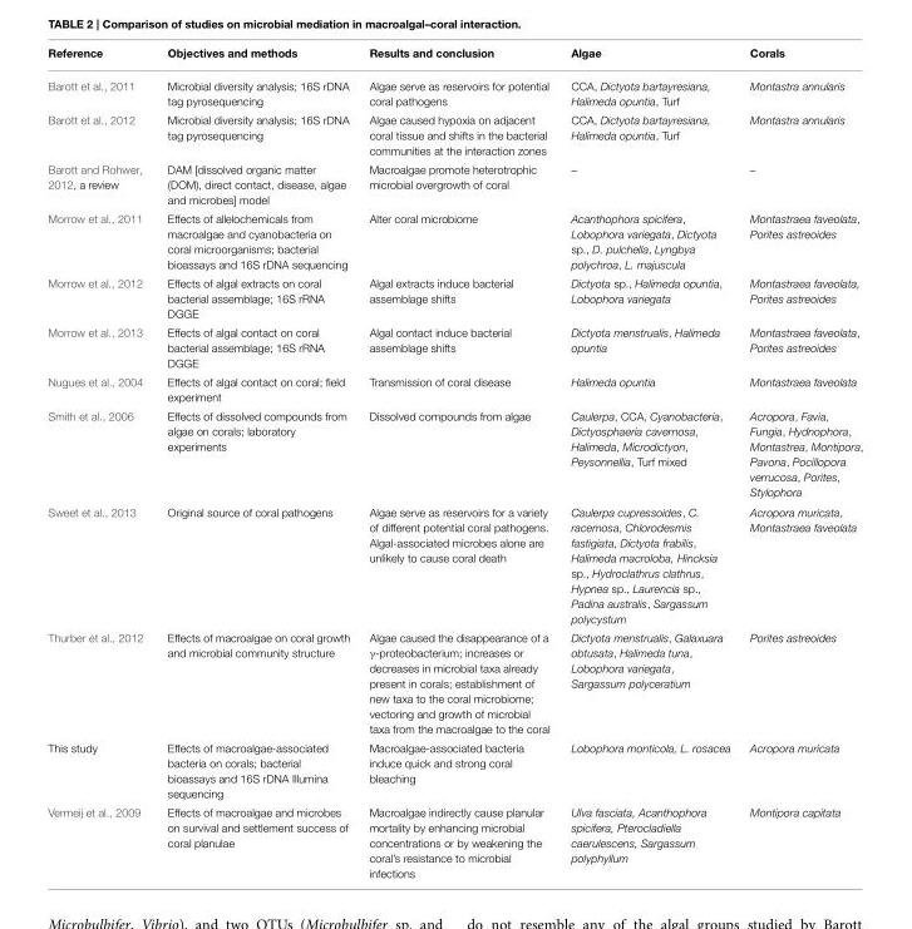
<table><thead><tr><td>Reference</td><td>Objectives and methods</td><td>Results and conclusion</td><td>Algae</td><td>Corals</td></tr></thead><tbody><tr><td>Barott et al., 2011</td><td>Microbial diversity analysis; 16S rDNA tag pyrosequencing</td><td>Algae serve as reservoirs for potential coral pathogens</td><td>CCA, Dictyota bartayresiana, Halimeda opuntia, Turf</td><td>Montastra annularis</td></tr><tr><td>Barott et al., 2012</td><td>Microbial diversity analysis; 16S rDNA tag pyrosequencing</td><td>Algae caused hypoxia on adjacent coral tissue and shifts in the bacterial communities at the interaction zones</td><td>CCA, Dictyota bartayresiana, Halimeda opuntia, Turf</td><td>Montastra annularis</td></tr><tr><td>Barott and Rohwer, 2012, a review</td><td>DAM [dissolved organic matter (DOM), direct contact, disease, algae and microbes] model</td><td>Macroalgae promote heterotrophic microbial overgrowth of coral</td><td>–</td><td>–</td></tr><tr><td>Morrow et al., 2011</td><td>Effects of allelochemicals from macroalgae and cyanobacteria on coral microorganisms; bacterial bioassays and 16S rDNA sequencing</td><td>Alter coral microbiome</td><td>Acanthophora spicifera, Lobophora variegata, Dictyota sp., D. pulchella, Lyngbya polychroa, L. majuscula</td><td>Montastraea faveolata, Porites astreoides</td></tr><tr><td>Morrow et al., 2012</td><td>Effects of algal extracts on coral bacterial assemblage; 16S rRNA DGGE</td><td>Algal extracts induce bacterial assemblage shifts</td><td>Dictyota sp., Halimeda opuntia, Lobophora variegata</td><td>Montastraea faveolata, Porites astreoides</td></tr><tr><td>Morrow et al., 2013</td><td>Effects of algal contact on coral bacterial assemblage; 16S rRNA DGGE</td><td>Algal contact induce bacterial assemblage shifts</td><td>Dictyota menstrualis, Halimeda opuntia</td><td>Montastraea faveolata, Porites astreoides</td></tr><tr><td>Nugues et al., 2004</td><td>Effects of algal contact on coral; field experiment</td><td>Transmission of coral disease</td><td>Halimeda opuntia</td><td>Montastraea faveolata</td></tr><tr><td>Smith et al., 2006</td><td>Effects of dissolved compounds from algae on corals; laboratory experiments</td><td>Dissolved compounds from algae</td><td>Caulerpa, CCA, Cyanobacteria, Dictyosphaeria cavernosa, Halimeda, Microdictyon, Peysonnellia, Turf mixed</td><td>Acropora, Favia, Fungia, Hydnophora, Montastrea, Montipora, Pavona, Pocillopora verrucosa, Porites, Stylophora</td></tr><tr><td>Sweet et al., 2013</td><td>Original source of coral pathogens</td><td>Algae serve as reservoirs for a variety of different potential coral pathogens. Algal-associated microbes alone are unlikely to cause coral death</td><td>Caulerpa cupressoides, C. racemosa, Chlorodesmis fastigiata, Dictyota frabilis, Halimeda macroloba, Hincksia sp., Hydroclathrus clathrus, Hypnea sp., Laurencia sp., Padina australis, Sargassum polycystum</td><td>Acropora muricata, Montastraea faveolata</td></tr><tr><td>Thurber et al., 2012</td><td>Effects of macroalgae on coral growth and microbial community structure</td><td>Algae caused the disappearance of a γ-proteobacterium; increases or decreases in microbial taxa already present in corals; establishment of new taxa to the coral microbiome; vectoring and growth of microbial taxa from the macroalgae to the coral</td><td>Dictyota menstrualis, Galaxuara obtusata, Halimeda tuna, Lobophora variegata, Sargassum polyceratium</td><td>Porites astreoides</td></tr><tr><td>This study</td><td>Effects of macroalgae-associated bacteria on corals; bacterial bioassays and 16S rDNA Illumina sequencing</td><td>Macroalgae-associated bacteria induce quick and strong coral bleaching</td><td>Lobophora monticola, L. rosacea</td><td>Acropora muricata</td></tr><tr><td>Vermeij et al., 2009</td><td>Effects of macroalgae and microbes on survival and settlement success of coral planulae</td><td>Macroalgae indirectly cause planular mortality by enhancing microbial concentrations or by weakening the coral’s resistance to microbial infections</td><td>Ulva fasciata, Acanthophora spicifera, Pterocladiella caerulescens, Sargassum polyphyllum</td><td>Montipora capitata</td></tr></tbody></table>